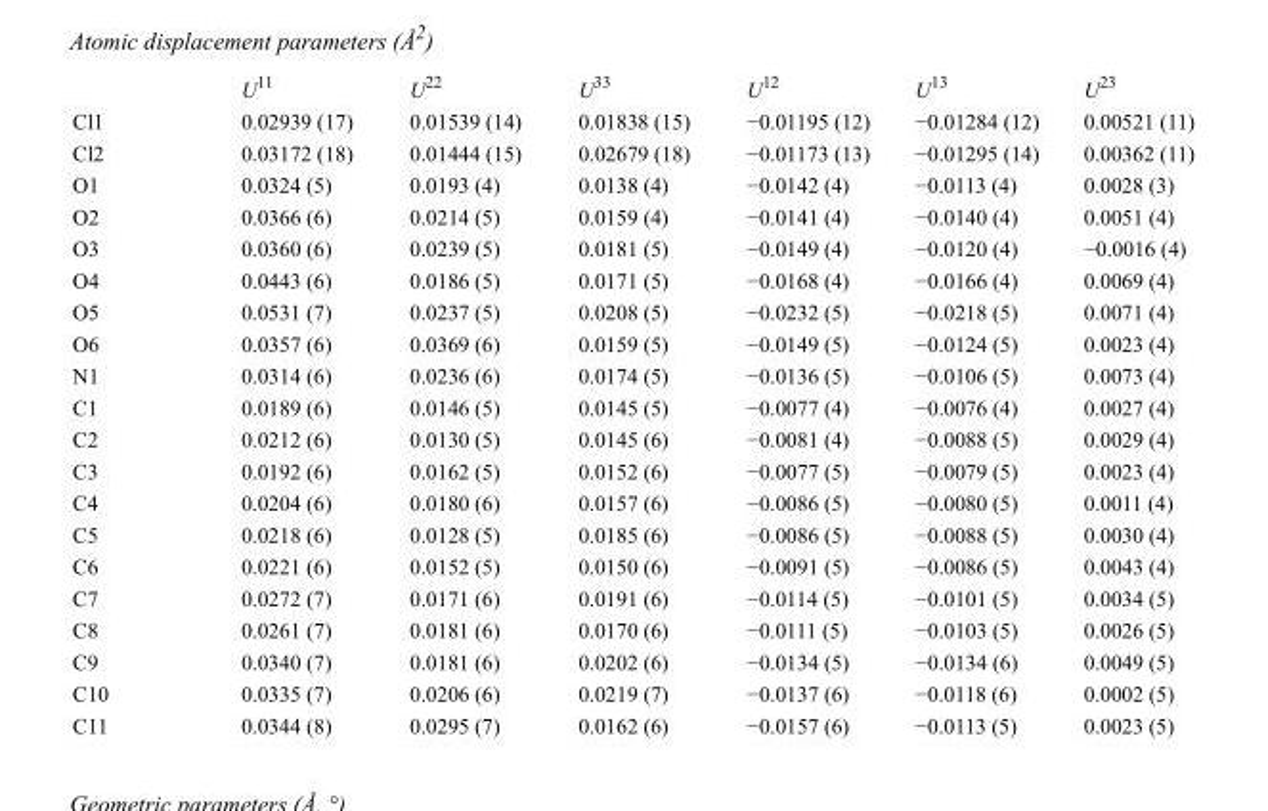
<table><thead><tr><td></td><td>U<sup>11</sup></td><td>U<sup>22</sup></td><td>U<sup>33</sup></td><td>U<sup>12</sup></td><td>U<sup>13</sup></td><td>U<sup>23</sup></td></tr></thead><tbody><tr><td>Cl1</td><td>0.02939 (17)</td><td>0.01539 (14)</td><td>0.01838 (15)</td><td>−0.01195 (12)</td><td>−0.01284 (12)</td><td>0.00521 (11)</td></tr><tr><td>Cl2</td><td>0.03172 (18)</td><td>0.01444 (15)</td><td>0.02679 (18)</td><td>−0.01173 (13)</td><td>−0.01295 (14)</td><td>0.00362 (11)</td></tr><tr><td>O1</td><td>0.0324 (5)</td><td>0.0193 (4)</td><td>0.0138 (4)</td><td>−0.0142 (4)</td><td>−0.0113 (4)</td><td>0.0028 (3)</td></tr><tr><td>O2</td><td>0.0366 (6)</td><td>0.0214 (5)</td><td>0.0159 (4)</td><td>−0.0141 (4)</td><td>−0.0140 (4)</td><td>0.0051 (4)</td></tr><tr><td>O3</td><td>0.0360 (6)</td><td>0.0239 (5)</td><td>0.0181 (5)</td><td>−0.0149 (4)</td><td>−0.0120 (4)</td><td>−0.0016 (4)</td></tr><tr><td>O4</td><td>0.0443 (6)</td><td>0.0186 (5)</td><td>0.0171 (5)</td><td>−0.0168 (4)</td><td>−0.0166 (4)</td><td>0.0069 (4)</td></tr><tr><td>O5</td><td>0.0531 (7)</td><td>0.0237 (5)</td><td>0.0208 (5)</td><td>−0.0232 (5)</td><td>−0.0218 (5)</td><td>0.0071 (4)</td></tr><tr><td>O6</td><td>0.0357 (6)</td><td>0.0369 (6)</td><td>0.0159 (5)</td><td>−0.0149 (5)</td><td>−0.0124 (5)</td><td>0.0023 (4)</td></tr><tr><td>N1</td><td>0.0314 (6)</td><td>0.0236 (6)</td><td>0.0174 (5)</td><td>−0.0136 (5)</td><td>−0.0106 (5)</td><td>0.0073 (4)</td></tr><tr><td>C1</td><td>0.0189 (6)</td><td>0.0146 (5)</td><td>0.0145 (5)</td><td>−0.0077 (4)</td><td>−0.0076 (4)</td><td>0.0027 (4)</td></tr><tr><td>C2</td><td>0.0212 (6)</td><td>0.0130 (5)</td><td>0.0145 (6)</td><td>−0.0081 (4)</td><td>−0.0088 (5)</td><td>0.0029 (4)</td></tr><tr><td>C3</td><td>0.0192 (6)</td><td>0.0162 (5)</td><td>0.0152 (6)</td><td>−0.0077 (5)</td><td>−0.0079 (5)</td><td>0.0023 (4)</td></tr><tr><td>C4</td><td>0.0204 (6)</td><td>0.0180 (6)</td><td>0.0157 (6)</td><td>−0.0086 (5)</td><td>−0.0080 (5)</td><td>0.0011 (4)</td></tr><tr><td>C5</td><td>0.0218 (6)</td><td>0.0128 (5)</td><td>0.0185 (6)</td><td>−0.0086 (5)</td><td>−0.0088 (5)</td><td>0.0030 (4)</td></tr><tr><td>C6</td><td>0.0221 (6)</td><td>0.0152 (5)</td><td>0.0150 (6)</td><td>−0.0091 (5)</td><td>−0.0086 (5)</td><td>0.0043 (4)</td></tr><tr><td>C7</td><td>0.0272 (7)</td><td>0.0171 (6)</td><td>0.0191 (6)</td><td>−0.0114 (5)</td><td>−0.0101 (5)</td><td>0.0034 (5)</td></tr><tr><td>C8</td><td>0.0261 (7)</td><td>0.0181 (6)</td><td>0.0170 (6)</td><td>−0.0111 (5)</td><td>−0.0103 (5)</td><td>0.0026 (5)</td></tr><tr><td>C9</td><td>0.0340 (7)</td><td>0.0181 (6)</td><td>0.0202 (6)</td><td>−0.0134 (5)</td><td>−0.0134 (6)</td><td>0.0049 (5)</td></tr><tr><td>C10</td><td>0.0335 (7)</td><td>0.0206 (6)</td><td>0.0219 (7)</td><td>−0.0137 (6)</td><td>−0.0118 (6)</td><td>0.0002 (5)</td></tr><tr><td>C11</td><td>0.0344 (8)</td><td>0.0295 (7)</td><td>0.0162 (6)</td><td>−0.0157 (6)</td><td>−0.0113 (5)</td><td>0.0023 (5)</td></tr></tbody></table>